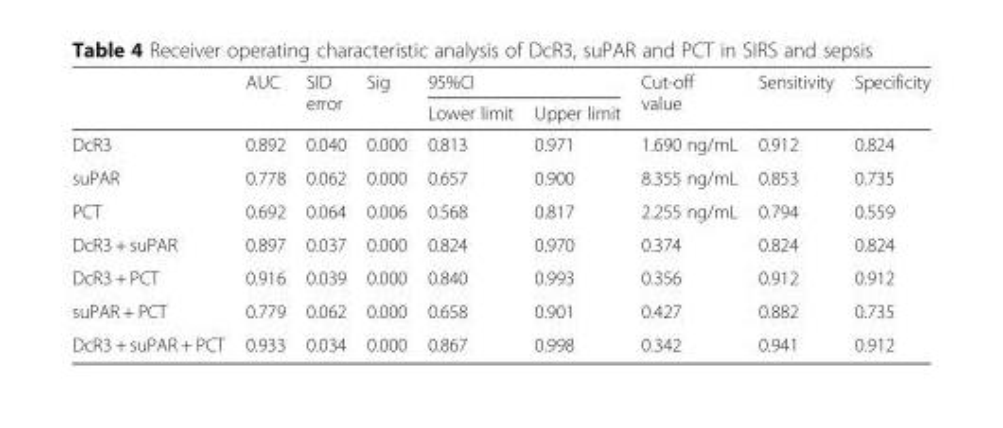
<table><thead><tr><td rowspan="2"></td><td rowspan="2">AUC</td><td rowspan="2">SID error</td><td rowspan="2">Sig</td><td colspan="2">95%CI</td><td rowspan="2">Cut-off value</td><td rowspan="2">Sensitivity</td><td rowspan="2">Specificity</td></tr><tr><td>Lower limit</td><td>Upper limit</td></tr></thead><tbody><tr><td>DcR3</td><td>0.892</td><td>0.040</td><td>0.000</td><td>0.813</td><td>0.971</td><td>1.690 ng/mL</td><td>0.912</td><td>0.824</td></tr><tr><td>suPAR</td><td>0.778</td><td>0.062</td><td>0.000</td><td>0.657</td><td>0.900</td><td>8.355 ng/mL</td><td>0.853</td><td>0.735</td></tr><tr><td>PCT</td><td>0.692</td><td>0.064</td><td>0.006</td><td>0.568</td><td>0.817</td><td>2.255 ng/mL</td><td>0.794</td><td>0.559</td></tr><tr><td>DcR3 + suPAR</td><td>0.897</td><td>0.037</td><td>0.000</td><td>0.824</td><td>0.970</td><td>0.374</td><td>0.824</td><td>0.824</td></tr><tr><td>DcR3 + PCT</td><td>0.916</td><td>0.039</td><td>0.000</td><td>0.840</td><td>0.993</td><td>0.356</td><td>0.912</td><td>0.912</td></tr><tr><td>suPAR + PCT</td><td>0.779</td><td>0.062</td><td>0.000</td><td>0.658</td><td>0.901</td><td>0.427</td><td>0.882</td><td>0.735</td></tr><tr><td>DcR3 + suPAR + PCT</td><td>0.933</td><td>0.034</td><td>0.000</td><td>0.867</td><td>0.998</td><td>0.342</td><td>0.941</td><td>0.912</td></tr></tbody></table>